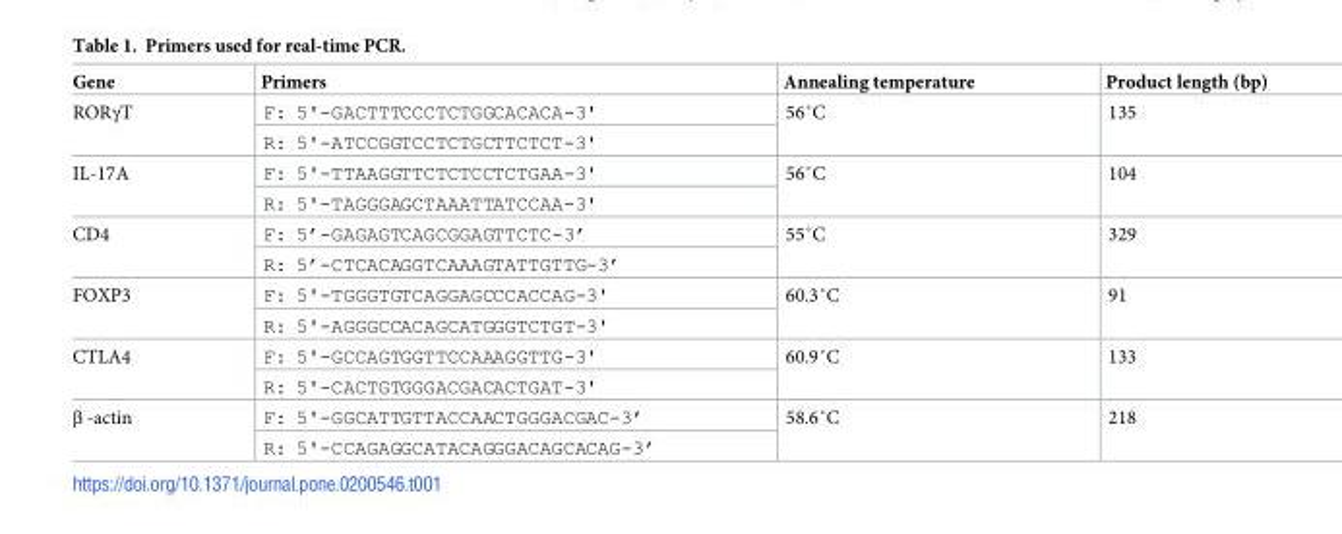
<table><thead><tr><td>Gene</td><td>Primers</td><td>Annealing temperature</td><td>Product length (bp)</td></tr></thead><tbody><tr><td rowspan="2">RORγT</td><td>F: 5&#x27;-GACTTTCCCTCTGGCACACA-3&#x27;</td><td rowspan="2">56˚C</td><td rowspan="2">135</td></tr><tr><td>R: 5&#x27;-ATCCGGTCCTCTGCTTCTCT-3&#x27;</td></tr><tr><td rowspan="2">IL-17A</td><td>F: 5&#x27;-TTAAGGTTCTCTCCTCTGAA-3&#x27;</td><td rowspan="2">56˚C</td><td rowspan="2">104</td></tr><tr><td>R: 5&#x27;-TAGGGAGCTAAATTATCCAA-3&#x27;</td></tr><tr><td rowspan="2">CD4</td><td>F: 5’-GAGAGTCAGCGGAGTTCTC-3’</td><td rowspan="2">55˚C</td><td rowspan="2">329</td></tr><tr><td>R: 5’-CTCACAGGTCAAAGTATTGTTG-3’</td></tr><tr><td rowspan="2">FOXP3</td><td>F: 5&#x27;-TGGGTGTCAGGAGCCCACCAG-3&#x27;</td><td rowspan="2">60.3˚C</td><td rowspan="2">91</td></tr><tr><td>R: 5&#x27;-AGGGCCACAGCATGGGTCTGT-3&#x27;</td></tr><tr><td rowspan="2">CTLA4</td><td>F: 5&#x27;-GCCAGTGGTTCCAAAGGTTG-3&#x27;</td><td rowspan="2">60.9˚C</td><td rowspan="2">133</td></tr><tr><td>R: 5&#x27;-CACTGTGGGACGACACTGAT-3&#x27;</td></tr><tr><td rowspan="2">β -actin</td><td>F: 5&#x27;-GGCATTGTTACCAACTGGGACGAC-3’</td><td rowspan="2">58.6˚C</td><td rowspan="2">218</td></tr><tr><td>R: 5&#x27;-CCAGAGGCATACAGGGACAGCACAG-3’</td></tr></tbody></table>